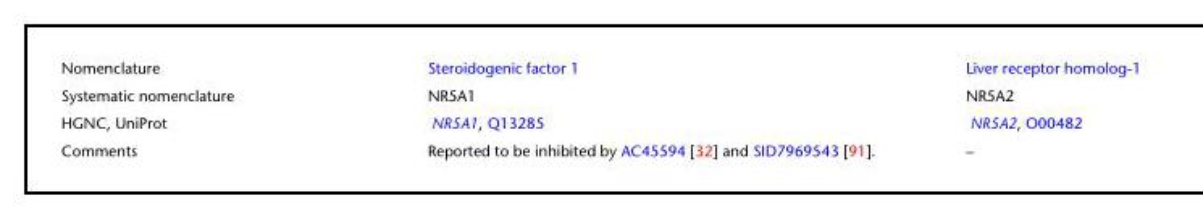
<table><tbody><tr><td>Nomenclature</td><td>Steroidogenic factor 1</td><td>Liver receptor homolog-1</td></tr><tr><td>Systematic nomenclature</td><td>NR5A1</td><td>NR5A2</td></tr><tr><td>HGNC, UniProt</td><td>NR5A1, Q13285</td><td>NR5A2, O00482</td></tr><tr><td>Comments</td><td>Reported to be inhibited by AC45594 [32] and SID7969543 [91].</td><td>–</td></tr></tbody></table>